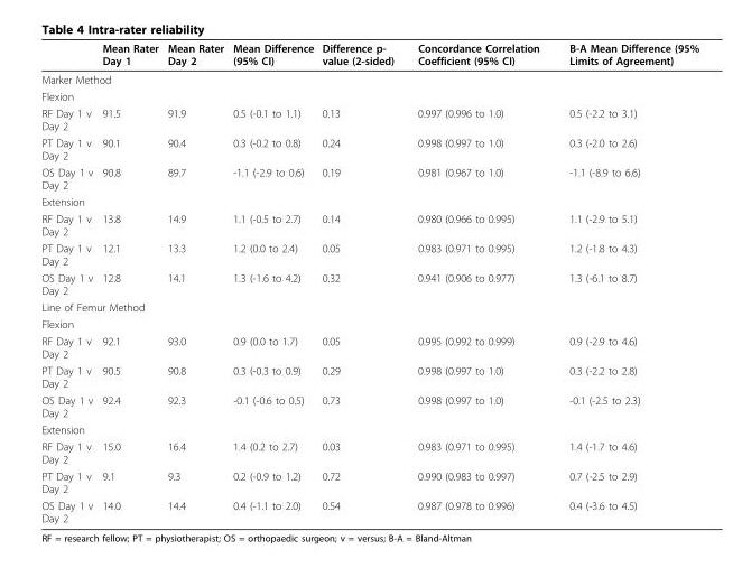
<table><thead><tr><td></td><td>Mean Rater Day 1</td><td>Mean Rater Day 2</td><td>Mean Difference (95% CI)</td><td>Difference p- value (2-sided)</td><td>Concordance Correlation Coefficient (95% CI)</td><td>B-A Mean Difference (95% Limits of Agreement)</td></tr></thead><tbody><tr><td colspan="7">Marker Method</td></tr><tr><td colspan="7">Flexion</td></tr><tr><td>RF Day 1 v Day 2</td><td>91.5</td><td>91.9</td><td>0.5 (-0.1 to 1.1)</td><td>0.13</td><td>0.997 (0.996 to 1.0)</td><td>0.5 (-2.2 to 3.1)</td></tr><tr><td>PT Day 1 v Day 2</td><td>90.1</td><td>90.4</td><td>0.3 (-0.2 to 0.8)</td><td>0.24</td><td>0.998 (0.997 to 1.0)</td><td>0.3 (-2.0 to 2.6)</td></tr><tr><td>OS Day 1 v Day 2</td><td>90.8</td><td>89.7</td><td>-1.1 (-2.9 to 0.6)</td><td>0.19</td><td>0.981 (0.967 to 1.0)</td><td>-1.1 (-8.9 to 6.6)</td></tr><tr><td colspan="7">Extension</td></tr><tr><td>RF Day 1 v Day 2</td><td>13.8</td><td>14.9</td><td>1.1 (-0.5 to 2.7)</td><td>0.14</td><td>0.980 (0.966 to 0.995)</td><td>1.1 (-2.9 to 5.1)</td></tr><tr><td>PT Day 1 v Day 2</td><td>12.1</td><td>13.3</td><td>1.2 (0.0 to 2.4)</td><td>0.05</td><td>0.983 (0.971 to 0.995)</td><td>1.2 (-1.8 to 4.3)</td></tr><tr><td>OS Day 1 v Day 2</td><td>12.8</td><td>14.1</td><td>1.3 (-1.6 to 4.2)</td><td>0.32</td><td>0.941 (0.906 to 0.977)</td><td>1.3 (-6.1 to 8.7)</td></tr><tr><td colspan="7">Line of Femur Method</td></tr><tr><td colspan="7">Flexion</td></tr><tr><td>RF Day 1 v Day 2</td><td>92.1</td><td>93.0</td><td>0.9 (0.0 to 1.7)</td><td>0.05</td><td>0.995 (0.992 to 0.999)</td><td>0.9 (-2.9 to 4.6)</td></tr><tr><td>PT Day 1 v Day 2</td><td>90.5</td><td>90.8</td><td>0.3 (-0.3 to 0.9)</td><td>0.29</td><td>0.998 (0.997 to 1.0)</td><td>0.3 (-2.2 to 2.8)</td></tr><tr><td>OS Day 1 v Day 2</td><td>92.4</td><td>92.3</td><td>-0.1 (-0.6 to 0.5)</td><td>0.73</td><td>0.998 (0.997 to 1.0)</td><td>-0.1 (-2.5 to 2.3)</td></tr><tr><td colspan="7">Extension</td></tr><tr><td>RF Day 1 v Day 2</td><td>15.0</td><td>16.4</td><td>1.4 (0.2 to 2.7)</td><td>0.03</td><td>0.983 (0.971 to 0.995)</td><td>1.4 (-1.7 to 4.6)</td></tr><tr><td>PT Day 1 v Day 2</td><td>9.1</td><td>9.3</td><td>0.2 (-0.9 to 1.2)</td><td>0.72</td><td>0.990 (0.983 to 0.997)</td><td>0.7 (-2.5 to 2.9)</td></tr><tr><td>OS Day 1 v Day 2</td><td>14.0</td><td>14.4</td><td>0.4 (-1.1 to 2.0)</td><td>0.54</td><td>0.987 (0.978 to 0.996)</td><td>0.4 (-3.6 to 4.5)</td></tr></tbody></table>